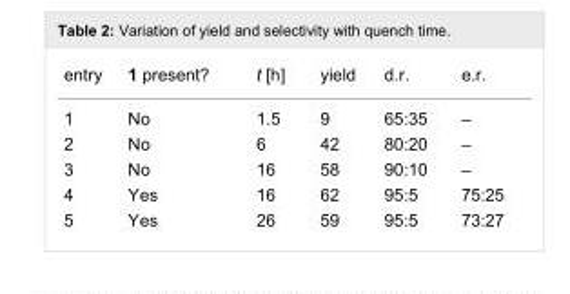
<table><tbody><tr><td>entry</td><td>1 present?</td><td>t [h]</td><td>yield</td><td>d.r.</td><td>e.r.</td></tr><tr><td>1</td><td>No</td><td>1.5</td><td>9</td><td>65:35</td><td>–</td></tr><tr><td>2</td><td>No</td><td>6</td><td>42</td><td>80:20</td><td>–</td></tr><tr><td>3</td><td>No</td><td>16</td><td>58</td><td>90:10</td><td>–</td></tr><tr><td>4</td><td>Yes</td><td>16</td><td>62</td><td>95:5</td><td>75:25</td></tr><tr><td>5</td><td>Yes</td><td>26</td><td>59</td><td>95:5</td><td>73:27</td></tr></tbody></table>